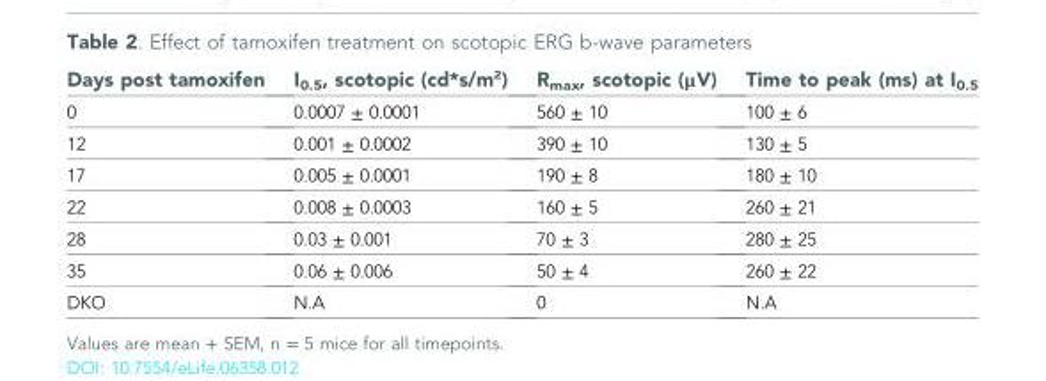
<table><thead><tr><td>Days post tamoxifen</td><td>I<sub>0.5</sub>, scotopic (cd*s/m<sup>2</sup>)</td><td>R<sub>max</sub>, scotopic (μV)</td><td>Time to peak (ms) at I<sub>0.5</sub></td></tr></thead><tbody><tr><td>0</td><td>0.0007 ± 0.0001</td><td>560 ± 10</td><td>100 ± 6</td></tr><tr><td>12</td><td>0.001 ± 0.0002</td><td>390 ± 10</td><td>130 ± 5</td></tr><tr><td>17</td><td>0.005 ± 0.0001</td><td>190 ± 8</td><td>180 ± 10</td></tr><tr><td>22</td><td>0.008 ± 0.0003</td><td>160 ± 5</td><td>260 ± 21</td></tr><tr><td>28</td><td>0.03 ± 0.001</td><td>70 ± 3</td><td>280 ± 25</td></tr><tr><td>35</td><td>0.06 ± 0.006</td><td>50 ± 4</td><td>260 ± 22</td></tr><tr><td>DKO</td><td>N.A</td><td>0</td><td>N.A</td></tr></tbody></table>